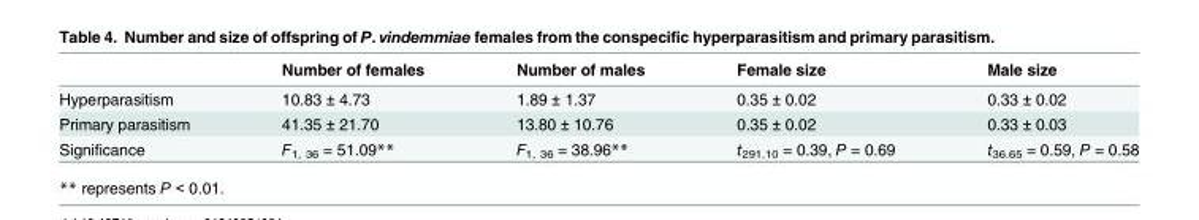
<table><thead><tr><td></td><td>Number of females</td><td>Number of males</td><td>Female size</td><td>Male size</td></tr></thead><tbody><tr><td>Hyperparasitism</td><td>10.83 ± 4.73</td><td>1.89 ± 1.37</td><td>0.35 ± 0.02</td><td>0.33 ± 0.02</td></tr><tr><td>Primary parasitism</td><td>41.35 ± 21.70</td><td>13.80 ± 10.76</td><td>0.35 ± 0.02</td><td>0.33 ± 0.03</td></tr><tr><td>Significance</td><td>F<sub>1, 36</sub> = 51.09**</td><td>F<sub>1, 36</sub> = 38.96**</td><td>t<sub>291.10</sub> = 0.39, P = 0.69</td><td>t<sub>36.65</sub> = 0.59, P = 0.58</td></tr></tbody></table>